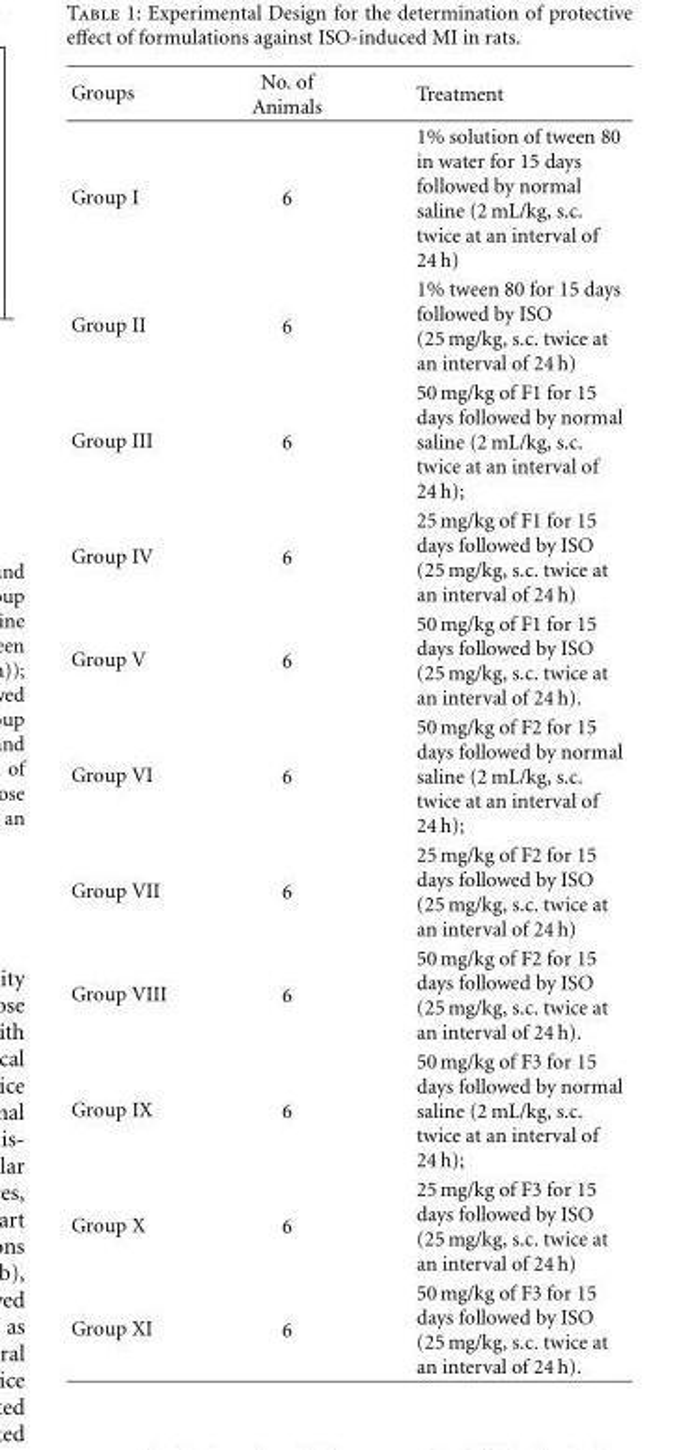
<table><thead><tr><td>Groups</td><td>No. of Animals</td><td>Treatment</td></tr></thead><tbody><tr><td>Group I</td><td>6</td><td>1% solution of tween 80 in water for 15 days followed by normal saline (2 mL/kg, s.c. twice at an interval of 24 h)</td></tr><tr><td>Group II</td><td>6</td><td>1% tween 80 for 15 days followed by ISO (25 mg/kg, s.c. twice at an interval of 24 h)</td></tr><tr><td>Group III</td><td>6</td><td>50 mg/kg of F1 for 15 days followed by normal saline (2 mL/kg, s.c. twice at an interval of 24 h);</td></tr><tr><td>Group IV</td><td>6</td><td>25 mg/kg of F1 for 15 days followed by ISO (25 mg/kg, s.c. twice at an interval of 24 h)</td></tr><tr><td>Group V</td><td>6</td><td>50 mg/kg of F1 for 15 days followed by ISO (25 mg/kg, s.c. twice at an interval of 24 h).</td></tr><tr><td>Group VI</td><td>6</td><td>50 mg/kg of F2 for 15 days followed by normal saline (2 mL/kg, s.c. twice at an interval of 24 h);</td></tr><tr><td>Group VII</td><td>6</td><td>25 mg/kg of F2 for 15 days followed by ISO (25 mg/kg, s.c. twice at an interval of 24 h)</td></tr><tr><td>Group VIII</td><td>6</td><td>50 mg/kg of F2 for 15 days followed by ISO (25 mg/kg, s.c. twice at an interval of 24 h).</td></tr><tr><td>Group IX</td><td>6</td><td>50 mg/kg of F3 for 15 days followed by normal saline (2 mL/kg, s.c. twice at an interval of 24 h);</td></tr><tr><td>Group X</td><td>6</td><td>25 mg/kg of F3 for 15 days followed by ISO (25 mg/kg, s.c. twice at an interval of 24 h)</td></tr><tr><td>Group XI</td><td>6</td><td>50 mg/kg of F3 for 15 days followed by ISO (25 mg/kg, s.c. twice at an interval of 24 h).</td></tr></tbody></table>